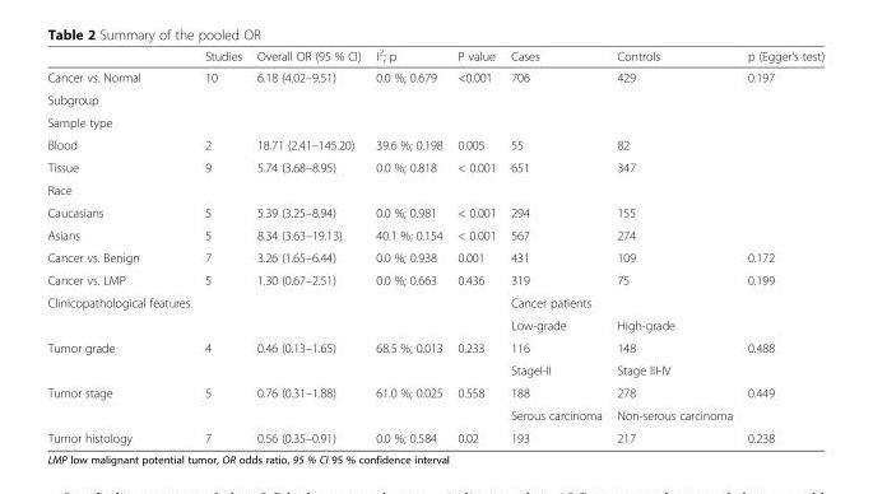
<table><thead><tr><td></td><td>Studies</td><td>Overall OR (95 % CI)</td><td>I<sup>2</sup>; p</td><td>P value</td><td>Cases</td><td>Controls</td><td>p (Egger’s test)</td></tr></thead><tbody><tr><td>Cancer vs. Normal</td><td>10</td><td>6.18 (4.02–9.51)</td><td>0.0 %; 0.679</td><td>&lt;0.001</td><td>706</td><td>429</td><td>0.197</td></tr><tr><td colspan="8">Subgroup</td></tr><tr><td colspan="8">Sample type</td></tr><tr><td>Blood</td><td>2</td><td>18.71 (2.41–145.20)</td><td>39.6 %; 0.198</td><td>0.005</td><td>55</td><td>82</td><td></td></tr><tr><td>Tissue</td><td>9</td><td>5.74 (3.68–8.95)</td><td>0.0 %; 0.818</td><td>&lt; 0.001</td><td>651</td><td>347</td><td></td></tr><tr><td colspan="8">Race</td></tr><tr><td>Caucasians</td><td>5</td><td>5.39 (3.25–8.94)</td><td>0.0 %; 0.981</td><td>&lt; 0.001</td><td>294</td><td>155</td><td></td></tr><tr><td>Asians</td><td>5</td><td>8.34 (3.63–19.13)</td><td>40.1 %; 0.154</td><td>&lt; 0.001</td><td>567</td><td>274</td><td></td></tr><tr><td>Cancer vs. Benign</td><td>7</td><td>3.26 (1.65–6.44)</td><td>0.0 %; 0.938</td><td>0.001</td><td>431</td><td>109</td><td>0.172</td></tr><tr><td>Cancer vs. LMP</td><td>5</td><td>1.30 (0.67–2.51)</td><td>0.0 %; 0.663</td><td>0.436</td><td>319</td><td>75</td><td>0.199</td></tr><tr><td rowspan="2">Clinicopathological features</td><td></td><td></td><td></td><td></td><td colspan="2">Cancer patients</td><td></td></tr><tr><td></td><td></td><td></td><td></td><td>Low-grade</td><td>High-grade</td><td></td></tr><tr><td rowspan="2">Tumor grade</td><td>4</td><td>0.46 (0.13–1.65)</td><td>68.5 %; 0.013</td><td>0.233</td><td>116</td><td>148</td><td>0.488</td></tr><tr><td></td><td></td><td></td><td></td><td>StageI-II</td><td>Stage III-IV</td><td></td></tr><tr><td rowspan="2">Tumor stage</td><td>5</td><td>0.76 (0.31–1.88)</td><td>61.0 %; 0.025</td><td>0.558</td><td>188</td><td>278</td><td>0.449</td></tr><tr><td></td><td></td><td></td><td></td><td>Serous carcinoma</td><td>Non-serous carcinoma</td><td></td></tr><tr><td>Tumor histology</td><td>7</td><td>0.56 (0.35–0.91)</td><td>0.0 %; 0.584</td><td>0.02</td><td>193</td><td>217</td><td>0.238</td></tr></tbody></table>